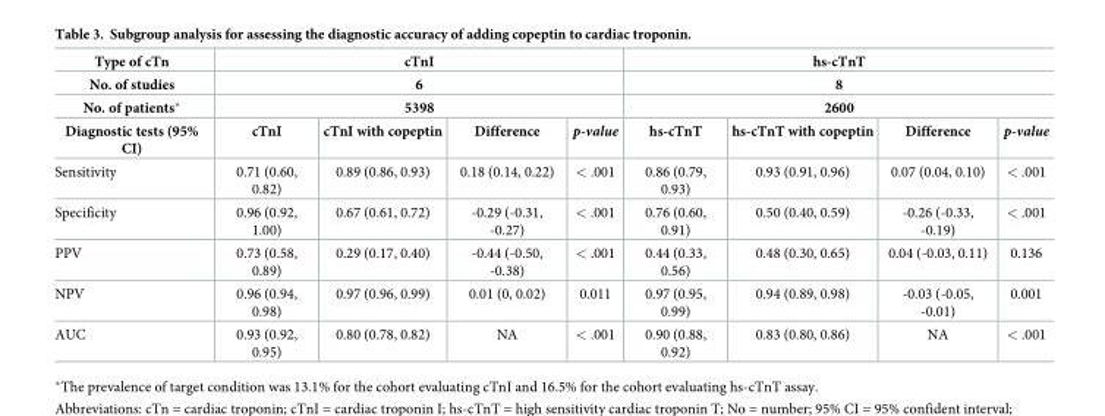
<table><thead><tr><td rowspan="4">Type of cTn No. of studies No. of patients* Diagnostic tests (95% CI)</td><td rowspan="3" colspan="4">cTnI 6 5398</td><td rowspan="3" colspan="4">hs-cTnT 8 2600</td></tr><tr></tr><tr></tr><tr><td>cTnI</td><td>cTnI with copeptin</td><td>Difference</td><td>p-value</td><td>hs-cTnT</td><td>hs-cTnT with copeptin</td><td>Difference</td><td>p-value</td></tr></thead><tbody><tr><td>Sensitivity</td><td>0.71 (0.60, 0.82)</td><td>0.89 (0.86, 0.93)</td><td>0.18 (0.14, 0.22)</td><td>&lt; .001</td><td>0.86 (0.79, 0.93)</td><td>0.93 (0.91, 0.96)</td><td>0.07 (0.04, 0.10)</td><td>&lt; .001</td></tr><tr><td>Specificity</td><td>0.96 (0.92, 1.00)</td><td>0.67 (0.61, 0.72)</td><td>-0.29 (-0.31, -0.27)</td><td>&lt; .001</td><td>0.76 (0.60, 0.91)</td><td>0.50 (0.40, 0.59)</td><td>-0.26 (-0.33, -0.19)</td><td>&lt; .001</td></tr><tr><td>PPV</td><td>0.73 (0.58, 0.89)</td><td>0.29 (0.17, 0.40)</td><td>-0.44 (-0.50, -0.38)</td><td>&lt; .001</td><td>0.44 (0.33, 0.56)</td><td>0.48 (0.30, 0.65)</td><td>0.04 (-0.03, 0.11)</td><td>0.136</td></tr><tr><td>NPV</td><td>0.96 (0.94, 0.98)</td><td>0.97 (0.96, 0.99)</td><td>0.01 (0, 0.02)</td><td>0.011</td><td>0.97 (0.95, 0.99)</td><td>0.94 (0.89, 0.98)</td><td>-0.03 (-0.05, -0.01)</td><td>0.001</td></tr><tr><td>AUC</td><td>0.93 (0.92, 0.95)</td><td>0.80 (0.78, 0.82)</td><td>NA</td><td>&lt; .001</td><td>0.90 (0.88, 0.92)</td><td>0.83 (0.80, 0.86)</td><td>NA</td><td>&lt; .001</td></tr></tbody></table>